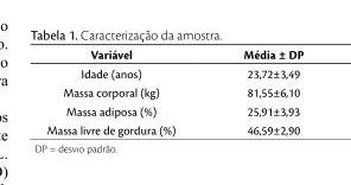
<table><thead><tr><td>Variável</td><td>Média ± DP</td></tr></thead><tbody><tr><td>Idade (anos)</td><td>23,72±3,49</td></tr><tr><td>Massa corporal (kg)</td><td>81,55±6,10</td></tr><tr><td>Massa adiposa (%)</td><td>25,91±3,93</td></tr><tr><td>Massa livre de gordura (%)</td><td>46,59±2,90</td></tr></tbody></table>